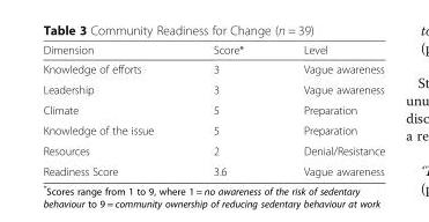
<table><thead><tr><td>Dimension</td><td>Score*</td><td>Level</td></tr></thead><tbody><tr><td>Knowledge of efforts</td><td>3</td><td>Vague awareness</td></tr><tr><td>Leadership</td><td>3</td><td>Vague awareness</td></tr><tr><td>Climate</td><td>5</td><td>Preparation</td></tr><tr><td>Knowledge of the issue</td><td>5</td><td>Preparation</td></tr><tr><td>Resources</td><td>2</td><td>Denial/Resistance</td></tr><tr><td>Readiness Score</td><td>3.6</td><td>Vague awareness</td></tr></tbody></table>